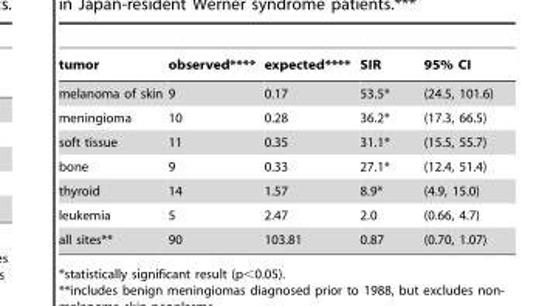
<table><thead><tr><td>tumor</td><td>observed****</td><td>expected****</td><td>SIR</td><td>95% CI</td></tr></thead><tbody><tr><td>melanoma of skin</td><td>9</td><td>0.17</td><td>53.5*</td><td>(24.5, 101.6)</td></tr><tr><td>meningioma</td><td>10</td><td>0.28</td><td>36.2*</td><td>(17.3, 66.5)</td></tr><tr><td>soft tissue</td><td>11</td><td>0.35</td><td>31.1*</td><td>(15.5, 55.7)</td></tr><tr><td>bone</td><td>9</td><td>0.33</td><td>27.1*</td><td>(12.4, 51.4)</td></tr><tr><td>thyroid</td><td>14</td><td>1.57</td><td>8.9*</td><td>(4.9, 15.0)</td></tr><tr><td>leukemia</td><td>5</td><td>2.47</td><td>2.0</td><td>(0.66, 4.7)</td></tr><tr><td>all sites**</td><td>90</td><td>103.81</td><td>0.87</td><td>(0.70, 1.07)</td></tr></tbody></table>